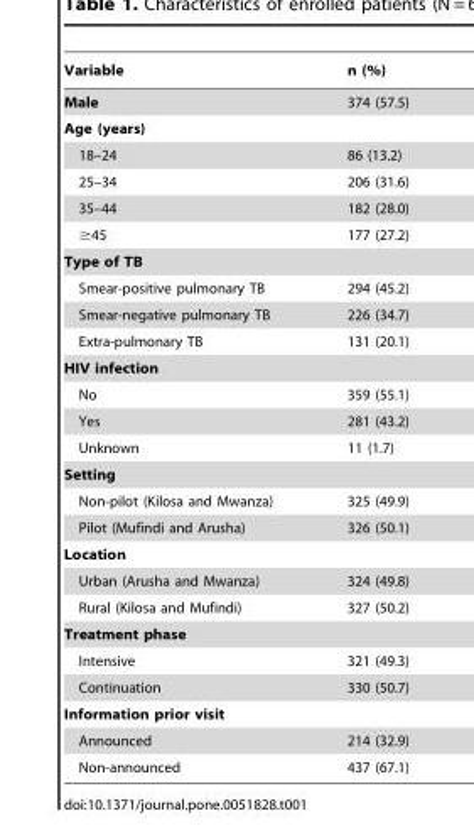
<table><thead><tr><td>Variable</td><td>n (%)</td></tr></thead><tbody><tr><td>Male</td><td>374 (57.5)</td></tr><tr><td colspan="2">Age (years)</td></tr><tr><td>18–24</td><td>86 (13.2)</td></tr><tr><td>25–34</td><td>206 (31.6)</td></tr><tr><td>35–44</td><td>182 (28.0)</td></tr><tr><td>≥45</td><td>177 (27.2)</td></tr><tr><td colspan="2">Type of TB</td></tr><tr><td>Smear-positive pulmonary TB</td><td>294 (45.2)</td></tr><tr><td>Smear-negative pulmonary TB</td><td>226 (34.7)</td></tr><tr><td>Extra-pulmonary TB</td><td>131 (20.1)</td></tr><tr><td colspan="2">HIV infection</td></tr><tr><td>No</td><td>359 (55.1)</td></tr><tr><td>Yes</td><td>281 (43.2)</td></tr><tr><td>Unknown</td><td>11 (1.7)</td></tr><tr><td colspan="2">Setting</td></tr><tr><td>Non-pilot (Kilosa and Mwanza)</td><td>325 (49.9)</td></tr><tr><td>Pilot (Mufindi and Arusha)</td><td>326 (50.1)</td></tr><tr><td colspan="2">Location</td></tr><tr><td>Urban (Arusha and Mwanza)</td><td>324 (49.8)</td></tr><tr><td>Rural (Kilosa and Mufindi)</td><td>327 (50.2)</td></tr><tr><td colspan="2">Treatment phase</td></tr><tr><td>Intensive</td><td>321 (49.3)</td></tr><tr><td>Continuation</td><td>330 (50.7)</td></tr><tr><td colspan="2">Information prior visit</td></tr><tr><td>Announced</td><td>214 (32.9)</td></tr><tr><td>Non-announced</td><td>437 (67.1)</td></tr></tbody></table>